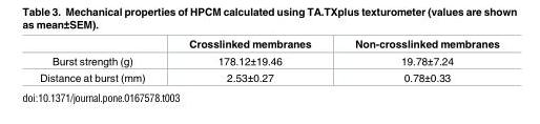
<table><thead><tr><td></td><td>Crosslinked membranes</td><td>Non-crosslinked membranes</td></tr></thead><tbody><tr><td>Burst strength (g)</td><td>178.12±19.46</td><td>19.78±7.24</td></tr><tr><td>Distance at burst (mm)</td><td>2.53±0.27</td><td>0.78±0.33</td></tr></tbody></table>